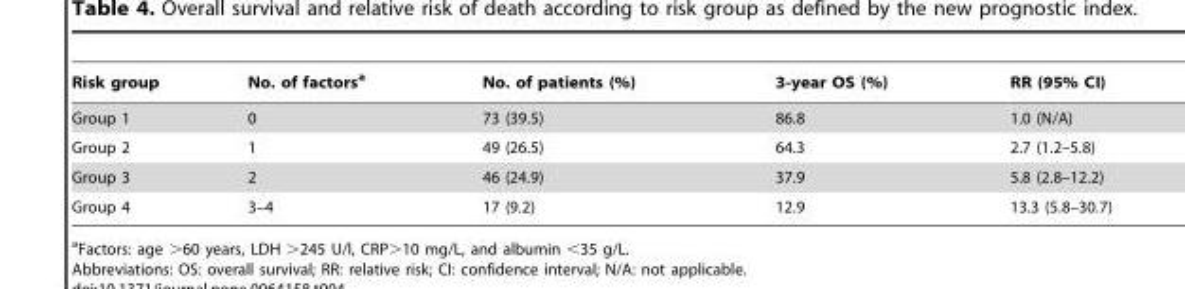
<table><thead><tr><td>Risk group</td><td>No. of factors<sup>a</sup></td><td>No. of patients (%)</td><td>3-year OS (%)</td><td>RR (95% CI)</td></tr></thead><tbody><tr><td>Group 1</td><td>0</td><td>73 (39.5)</td><td>86.8</td><td>1.0 (N/A)</td></tr><tr><td>Group 2</td><td>1</td><td>49 (26.5)</td><td>64.3</td><td>2.7 (1.2–5.8)</td></tr><tr><td>Group 3</td><td>2</td><td>46 (24.9)</td><td>37.9</td><td>5.8 (2.8–12.2)</td></tr><tr><td>Group 4</td><td>3–4</td><td>17 (9.2)</td><td>12.9</td><td>13.3 (5.8–30.7)</td></tr></tbody></table>